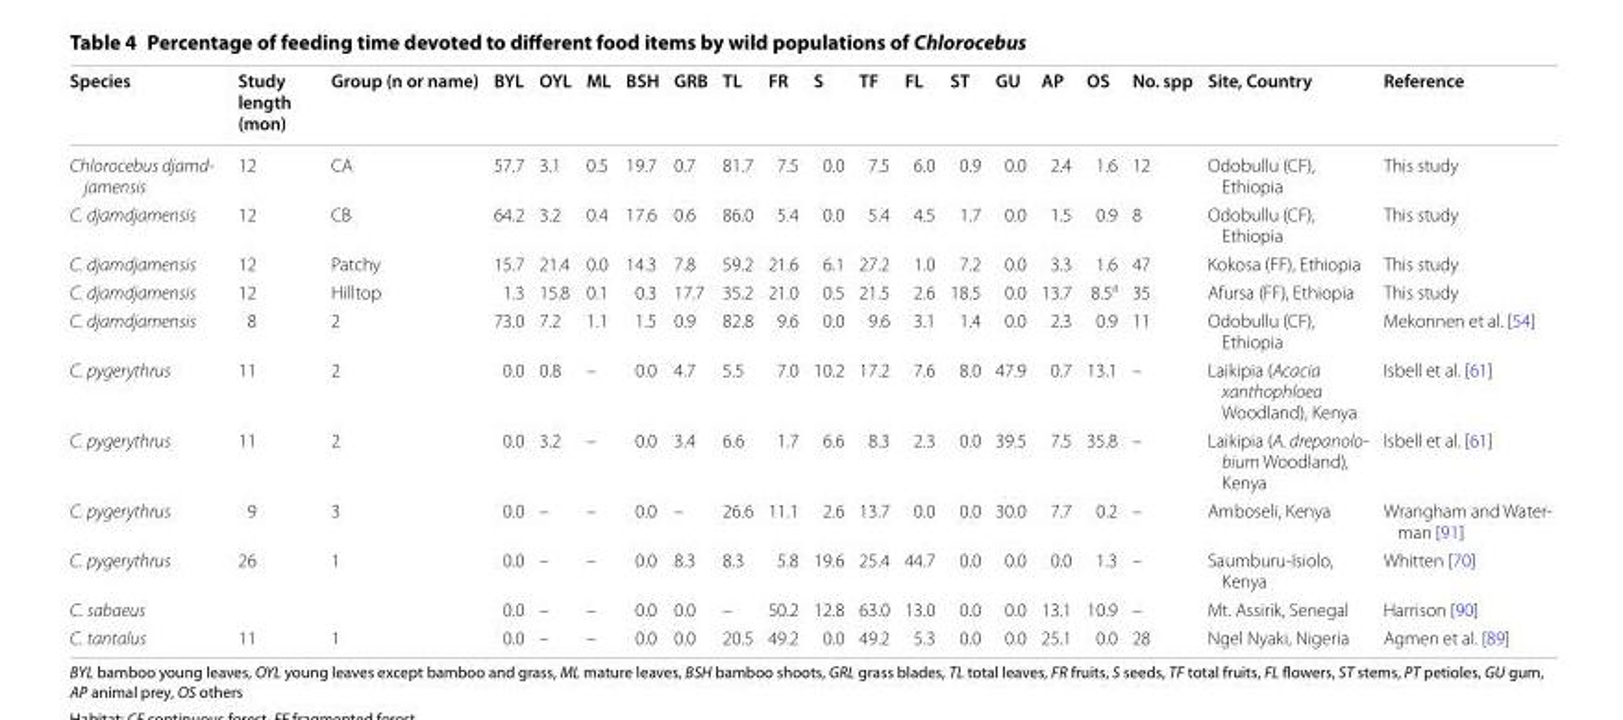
<table><thead><tr><td>Species</td><td>Study length (mon)</td><td>Group (n or name)</td><td>BYL</td><td>OYL</td><td>ML</td><td>BSH</td><td>GRB</td><td>TL</td><td>FR</td><td>S</td><td>TF</td><td>FL</td><td>ST</td><td>GU</td><td>AP</td><td>OS</td><td>No. spp</td><td>Site, Country</td><td>Reference</td></tr></thead><tbody><tr><td>Chlorocebus djamd- jamensis</td><td>12</td><td>CA</td><td>57.7</td><td>3.1</td><td>0.5</td><td>19.7</td><td>0.7</td><td>81.7</td><td>7.5</td><td>0.0</td><td>7.5</td><td>6.0</td><td>0.9</td><td>0.0</td><td>2.4</td><td>1.6</td><td>12</td><td>Odobullu (CF), Ethiopia</td><td>This study</td></tr><tr><td>C. djamdjamensis</td><td>12</td><td>CB</td><td>64.2</td><td>3.2</td><td>0.4</td><td>17.6</td><td>0.6</td><td>86.0</td><td>5.4</td><td>0.0</td><td>5.4</td><td>4.5</td><td>1.7</td><td>0.0</td><td>1.5</td><td>0.9</td><td>8</td><td>Odobullu (CF), Ethiopia</td><td>This study</td></tr><tr><td>C. djamdjamensis</td><td>12</td><td>Patchy</td><td>15.7</td><td>21.4</td><td>0.0</td><td>14.3</td><td>7.8</td><td>59.2</td><td>21.6</td><td>6.1</td><td>27.2</td><td>1.0</td><td>7.2</td><td>0.0</td><td>3.3</td><td>1.6</td><td>47</td><td>Kokosa (FF), Ethiopia</td><td>This study</td></tr><tr><td>C. djamdjamensis</td><td>12</td><td>Hilltop</td><td>1.3</td><td>15.8</td><td>0.1</td><td>0.3</td><td>17.7</td><td>35.2</td><td>21.0</td><td>0.5</td><td>21.5</td><td>2.6</td><td>18.5</td><td>0.0</td><td>13.7</td><td>8.5<sup>a</sup></td><td>35</td><td>Afursa (FF), Ethiopia</td><td>This study</td></tr><tr><td>C. djamdjamensis</td><td>8</td><td>2</td><td>73.0</td><td>7.2</td><td>1.1</td><td>1.5</td><td>0.9</td><td>82.8</td><td>9.6</td><td>0.0</td><td>9.6</td><td>3.1</td><td>1.4</td><td>0.0</td><td>2.3</td><td>0.9</td><td>11</td><td>Odobullu (CF), Ethiopia</td><td>Mekonnen et al. [54]</td></tr><tr><td>C. pygerythrus</td><td>11</td><td>2</td><td>0.0</td><td>0.8</td><td>–</td><td>0.0</td><td>4.7</td><td>5.5</td><td>7.0</td><td>10.2</td><td>17.2</td><td>7.6</td><td>8.0</td><td>47.9</td><td>0.7</td><td>13.1</td><td>–</td><td>Laikipia (Acacia xanthophloea Woodland), Kenya</td><td>Isbell et al. [61]</td></tr><tr><td>C. pygerythrus</td><td>11</td><td>2</td><td>0.0</td><td>3.2</td><td>–</td><td>0.0</td><td>3.4</td><td>6.6</td><td>1.7</td><td>6.6</td><td>8.3</td><td>2.3</td><td>0.0</td><td>39.5</td><td>7.5</td><td>35.8</td><td>–</td><td>Laikipia (A. drepanolo- bium Woodland), Kenya</td><td>Isbell et al. [61]</td></tr><tr><td>C. pygerythrus</td><td>9</td><td>3</td><td>0.0</td><td>–</td><td>–</td><td>0.0</td><td>–</td><td>26.6</td><td>11.1</td><td>2.6</td><td>13.7</td><td>0.0</td><td>0.0</td><td>30.0</td><td>7.7</td><td>0.2</td><td>–</td><td>Amboseli, Kenya</td><td>Wrangham and Water‑ man [91]</td></tr><tr><td>C. pygerythrus</td><td>26</td><td>1</td><td>0.0</td><td>–</td><td>–</td><td>0.0</td><td>8.3</td><td>8.3</td><td>5.8</td><td>19.6</td><td>25.4</td><td>44.7</td><td>0.0</td><td>0.0</td><td>0.0</td><td>1.3</td><td>–</td><td>Saumburu‑Isiolo, Kenya</td><td>Whitten [70]</td></tr><tr><td>C. sabaeus</td><td></td><td></td><td>0.0</td><td>–</td><td>–</td><td>0.0</td><td>0.0</td><td>–</td><td>50.2</td><td>12.8</td><td>63.0</td><td>13.0</td><td>0.0</td><td>0.0</td><td>13.1</td><td>10.9</td><td>–</td><td>Mt. Assirik, Senegal</td><td>Harrison [90]</td></tr><tr><td>C. tantalus</td><td>11</td><td>1</td><td>0.0</td><td>–</td><td>–</td><td>0.0</td><td>0.0</td><td>20.5</td><td>49.2</td><td>0.0</td><td>49.2</td><td>5.3</td><td>0.0</td><td>0.0</td><td>25.1</td><td>0.0</td><td>28</td><td>Ngel Nyaki, Nigeria</td><td>Agmen et al. [89]</td></tr></tbody></table>